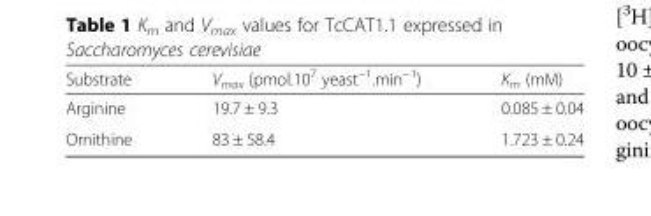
<table><thead><tr><td>Substrate</td><td>V<sub>max</sub> (pmol.10<sup>7</sup> yeast<sup>−1</sup>.min<sup>−1</sup>)</td><td>K<sub>m</sub> (mM)</td></tr></thead><tbody><tr><td>Arginine</td><td>19.7 ± 9.3</td><td>0.085 ± 0.04</td></tr><tr><td>Ornithine</td><td>83 ± 58.4</td><td>1.723 ± 0.24</td></tr></tbody></table>